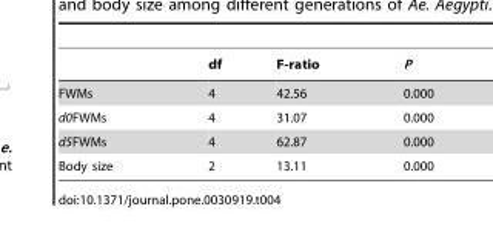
<table><thead><tr><td></td><td>df</td><td>F-ratio</td><td>P</td></tr></thead><tbody><tr><td>FWMs</td><td>4</td><td>42.56</td><td>0.000</td></tr><tr><td>d0FWMs</td><td>4</td><td>31.07</td><td>0.000</td></tr><tr><td>d5FWMs</td><td>4</td><td>62.87</td><td>0.000</td></tr><tr><td>Body size</td><td>2</td><td>13.11</td><td>0.000</td></tr></tbody></table>